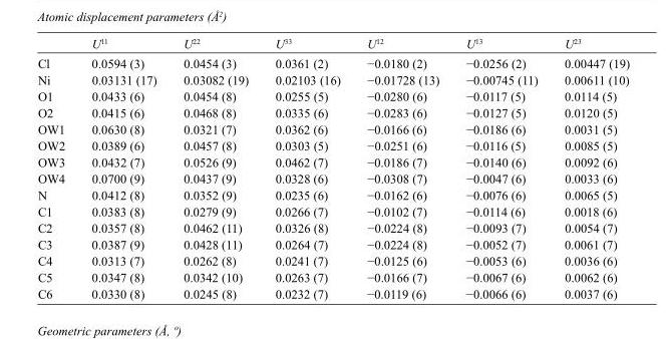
<table><thead><tr><td></td><td>U<sup>11</sup></td><td>U<sup>22</sup></td><td>U<sup>33</sup></td><td>U<sup>12</sup></td><td>U<sup>13</sup></td><td>U<sup>23</sup></td></tr></thead><tbody><tr><td>Cl</td><td>0.0594 (3)</td><td>0.0454 (3)</td><td>0.0361 (2)</td><td>−0.0180 (2)</td><td>−0.0256 (2)</td><td>0.00447 (19)</td></tr><tr><td>Ni</td><td>0.03131 (17)</td><td>0.03082 (19)</td><td>0.02103 (16)</td><td>−0.01728 (13)</td><td>−0.00745 (11)</td><td>0.00611 (10)</td></tr><tr><td>O1</td><td>0.0433 (6)</td><td>0.0454 (8)</td><td>0.0255 (5)</td><td>−0.0280 (6)</td><td>−0.0117 (5)</td><td>0.0114 (5)</td></tr><tr><td>O2</td><td>0.0415 (6)</td><td>0.0468 (8)</td><td>0.0335 (6)</td><td>−0.0283 (6)</td><td>−0.0127 (5)</td><td>0.0120 (5)</td></tr><tr><td>OW1</td><td>0.0630 (8)</td><td>0.0321 (7)</td><td>0.0362 (6)</td><td>−0.0166 (6)</td><td>−0.0186 (6)</td><td>0.0031 (5)</td></tr><tr><td>OW2</td><td>0.0389 (6)</td><td>0.0457 (8)</td><td>0.0303 (5)</td><td>−0.0251 (6)</td><td>−0.0116 (5)</td><td>0.0085 (5)</td></tr><tr><td>OW3</td><td>0.0432 (7)</td><td>0.0526 (9)</td><td>0.0462 (7)</td><td>−0.0186 (7)</td><td>−0.0140 (6)</td><td>0.0092 (6)</td></tr><tr><td>OW4</td><td>0.0700 (9)</td><td>0.0437 (9)</td><td>0.0328 (6)</td><td>−0.0308 (7)</td><td>−0.0047 (6)</td><td>0.0033 (6)</td></tr><tr><td>N</td><td>0.0412 (8)</td><td>0.0352 (9)</td><td>0.0235 (6)</td><td>−0.0162 (6)</td><td>−0.0076 (6)</td><td>0.0065 (5)</td></tr><tr><td>C1</td><td>0.0383 (8)</td><td>0.0279 (9)</td><td>0.0266 (7)</td><td>−0.0102 (7)</td><td>−0.0114 (6)</td><td>0.0018 (6)</td></tr><tr><td>C2</td><td>0.0357 (8)</td><td>0.0462 (11)</td><td>0.0326 (8)</td><td>−0.0224 (8)</td><td>−0.0093 (7)</td><td>0.0054 (7)</td></tr><tr><td>C3</td><td>0.0387 (9)</td><td>0.0428 (11)</td><td>0.0264 (7)</td><td>−0.0224 (8)</td><td>−0.0052 (7)</td><td>0.0061 (7)</td></tr><tr><td>C4</td><td>0.0313 (7)</td><td>0.0262 (8)</td><td>0.0241 (7)</td><td>−0.0125 (6)</td><td>−0.0053 (6)</td><td>0.0036 (6)</td></tr><tr><td>C5</td><td>0.0347 (8)</td><td>0.0342 (10)</td><td>0.0263 (7)</td><td>−0.0166 (7)</td><td>−0.0067 (6)</td><td>0.0062 (6)</td></tr><tr><td>C6</td><td>0.0330 (8)</td><td>0.0245 (8)</td><td>0.0232 (7)</td><td>−0.0119 (6)</td><td>−0.0066 (6)</td><td>0.0037 (6)</td></tr></tbody></table>